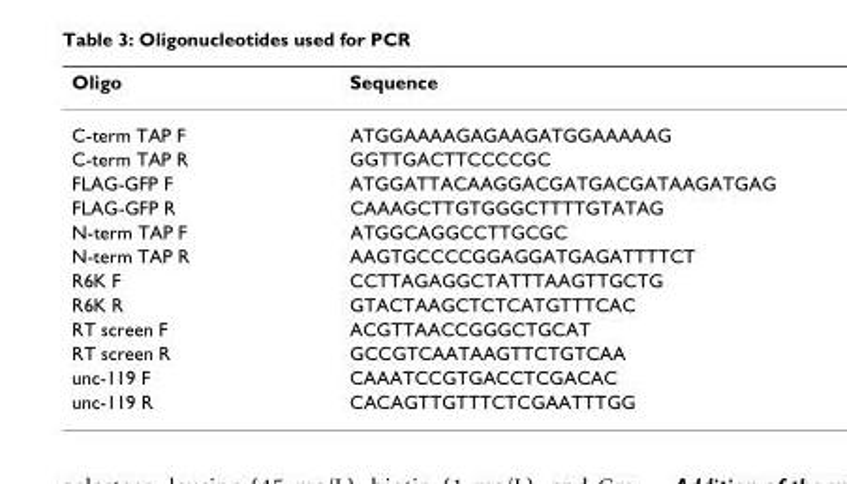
<table><thead><tr><td>Oligo</td><td>Sequence</td></tr></thead><tbody><tr><td>C-term TAP F</td><td>ATGGAAAAGAGAAGATGGAAAAAG</td></tr><tr><td>C-term TAP R</td><td>GGTTGACTTCCCCGC</td></tr><tr><td>FLAG-GFP F</td><td>ATGGATTACAAGGACGATGACGATAAGATGAG</td></tr><tr><td>FLAG-GFP R</td><td>CAAAGCTTGTGGGCTTTTGTATAG</td></tr><tr><td>N-term TAP F</td><td>ATGGCAGGCCTTGCGC</td></tr><tr><td>N-term TAP R</td><td>AAGTGCCCCGGAGGATGAGATTTTCT</td></tr><tr><td>R6K F</td><td>CCTTAGAGGCTATTTAAGTTGCTG</td></tr><tr><td>R6K R</td><td>GTACTAAGCTCTCATGTTTCAC</td></tr><tr><td>RT screen F</td><td>ACGTTAACCGGGCTGCAT</td></tr><tr><td>RT screen R</td><td>GCCGTCAATAAGTTCTGTCAA</td></tr><tr><td>unc-119 F</td><td>CAAATCCGTGACCTCGACAC</td></tr><tr><td>unc-119 R</td><td>CACAGTTGTTTCTCGAATTTGG</td></tr></tbody></table>